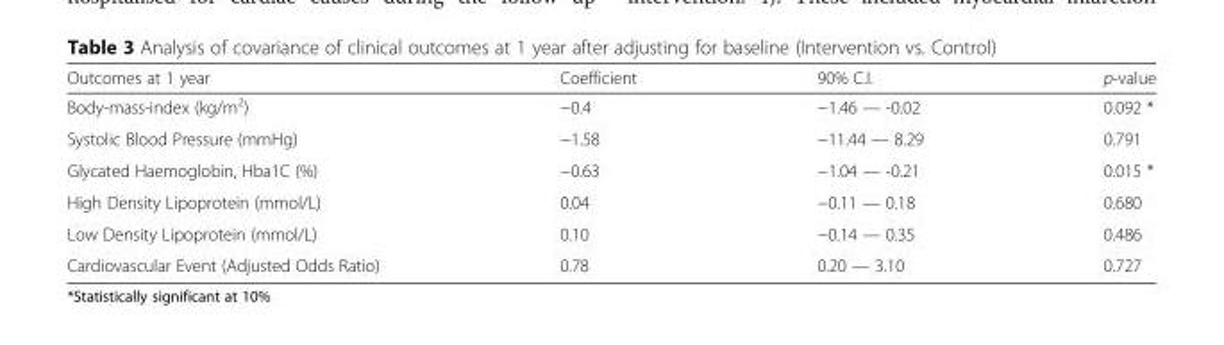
<table><thead><tr><td>Outcomes at 1 year</td><td>Coefficient</td><td>90% C.I.</td><td>p-value</td></tr></thead><tbody><tr><td>Body-mass-index (kg/m<sup>2</sup>)</td><td>−0.4</td><td>−1.46 — -0.02</td><td>0.092 *</td></tr><tr><td>Systolic Blood Pressure (mmHg)</td><td>−1.58</td><td>−11.44 — 8.29</td><td>0.791</td></tr><tr><td>Glycated Haemoglobin, Hba1C (%)</td><td>−0.63</td><td>−1.04 — -0.21</td><td>0.015 *</td></tr><tr><td>High Density Lipoprotein (mmol/L)</td><td>0.04</td><td>−0.11 — 0.18</td><td>0.680</td></tr><tr><td>Low Density Lipoprotein (mmol/L)</td><td>0.10</td><td>−0.14 — 0.35</td><td>0.486</td></tr><tr><td>Cardiovascular Event (Adjusted Odds Ratio)</td><td>0.78</td><td>0.20 — 3.10</td><td>0.727</td></tr></tbody></table>